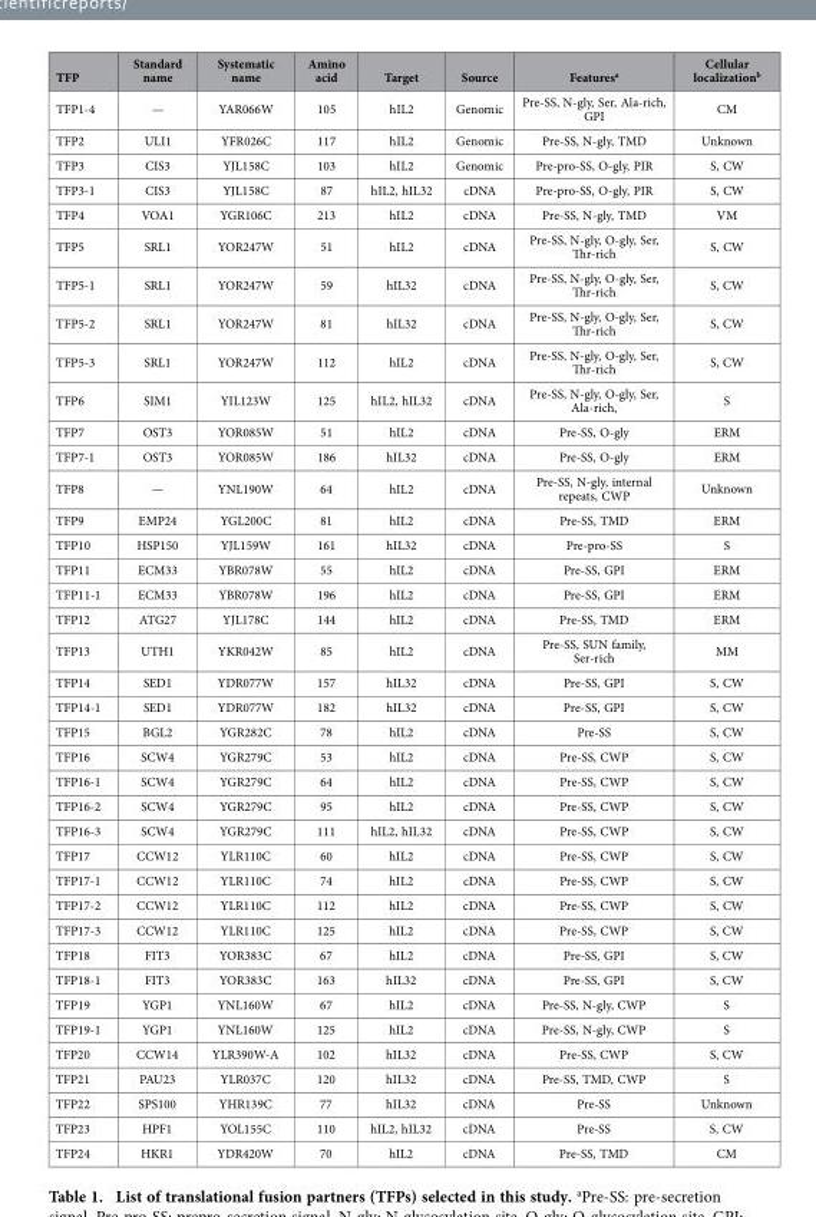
<table><thead><tr><td>TFP</td><td>Standard name</td><td>Systematic name</td><td>Amino acid</td><td>Target</td><td>Source</td><td>Features<sup>a</sup></td><td>Cellular localization<sup>b</sup></td></tr></thead><tbody><tr><td>TFP1-4</td><td>—</td><td>YAR066W</td><td>105</td><td>hIL2</td><td>Genomic</td><td>Pre-SS, N-gly, Ser, Ala-rich, GPI</td><td>CM</td></tr><tr><td>TFP2</td><td>ULI1</td><td>YFR026C</td><td>117</td><td>hIL2</td><td>Genomic</td><td>Pre-SS, N-gly, TMD</td><td>Unknown</td></tr><tr><td>TFP3</td><td>CIS3</td><td>YJL158C</td><td>103</td><td>hIL2</td><td>Genomic</td><td>Pre-pro-SS, O-gly, PIR</td><td>S, CW</td></tr><tr><td>TFP3-1</td><td>CIS3</td><td>YJL158C</td><td>87</td><td>hIL2, hIL32</td><td>cDNA</td><td>Pre-pro-SS, O-gly, PIR</td><td>S, CW</td></tr><tr><td>TFP4</td><td>VOA1</td><td>YGR106C</td><td>213</td><td>hIL2</td><td>cDNA</td><td>Pre-SS, N-gly, TMD</td><td>VM</td></tr><tr><td>TFP5</td><td>SRL1</td><td>YOR247W</td><td>51</td><td>hIL2</td><td>cDNA</td><td>Pre-SS, N-gly, O-gly, Ser, Thr-rich</td><td>S, CW</td></tr><tr><td>TFP5-1</td><td>SRL1</td><td>YOR247W</td><td>59</td><td>hIL32</td><td>cDNA</td><td>Pre-SS, N-gly, O-gly, Ser, Thr-rich</td><td>S, CW</td></tr><tr><td>TFP5-2</td><td>SRL1</td><td>YOR247W</td><td>81</td><td>hIL32</td><td>cDNA</td><td>Pre-SS, N-gly, O-gly, Ser, Thr-rich</td><td>S, CW</td></tr><tr><td>TFP5-3</td><td>SRL1</td><td>YOR247W</td><td>112</td><td>hIL2</td><td>cDNA</td><td>Pre-SS, N-gly, O-gly, Ser, Thr-rich</td><td>S, CW</td></tr><tr><td>TFP6</td><td>SIM1</td><td>YIL123W</td><td>125</td><td>hIL2, hIL32</td><td>cDNA</td><td>Pre-SS, N-gly, O-gly, Ser, Ala-rich,</td><td>S</td></tr><tr><td>TFP7</td><td>OST3</td><td>YOR085W</td><td>51</td><td>hIL2</td><td>cDNA</td><td>Pre-SS, O-gly</td><td>ERM</td></tr><tr><td>TFP7-1</td><td>OST3</td><td>YOR085W</td><td>186</td><td>hIL32</td><td>cDNA</td><td>Pre-SS, O-gly</td><td>ERM</td></tr><tr><td>TFP8</td><td>—</td><td>YNL190W</td><td>64</td><td>hIL2</td><td>cDNA</td><td>Pre-SS, N-gly, internal repeats, CWP</td><td>Unknown</td></tr><tr><td>TFP9</td><td>EMP24</td><td>YGL200C</td><td>81</td><td>hIL2</td><td>cDNA</td><td>Pre-SS, TMD</td><td>ERM</td></tr><tr><td>TFP10</td><td>HSP150</td><td>YJL159W</td><td>161</td><td>hIL32</td><td>cDNA</td><td>Pre-pro-SS</td><td>S</td></tr><tr><td>TFP11</td><td>ECM33</td><td>YBR078W</td><td>55</td><td>hIL2</td><td>cDNA</td><td>Pre-SS, GPI</td><td>ERM</td></tr><tr><td>TFP11-1</td><td>ECM33</td><td>YBR078W</td><td>196</td><td>hIL2</td><td>cDNA</td><td>Pre-SS, GPI</td><td>ERM</td></tr><tr><td>TFP12</td><td>ATG27</td><td>YJL178C</td><td>144</td><td>hIL2</td><td>cDNA</td><td>Pre-SS, TMD</td><td>ERM</td></tr><tr><td>TFP13</td><td>UTH1</td><td>YKR042W</td><td>85</td><td>hIL2</td><td>cDNA</td><td>Pre-SS, SUN family, Ser-rich</td><td>MM</td></tr><tr><td>TFP14</td><td>SED1</td><td>YDR077W</td><td>157</td><td>hIL32</td><td>cDNA</td><td>Pre-SS, GPI</td><td>S, CW</td></tr><tr><td>TFP14-1</td><td>SED1</td><td>YDR077W</td><td>182</td><td>hIL32</td><td>cDNA</td><td>Pre-SS, GPI</td><td>S, CW</td></tr><tr><td>TFP15</td><td>BGL2</td><td>YGR282C</td><td>78</td><td>hIL2</td><td>cDNA</td><td>Pre-SS</td><td>S, CW</td></tr><tr><td>TFP16</td><td>SCW4</td><td>YGR279C</td><td>53</td><td>hIL2</td><td>cDNA</td><td>Pre-SS, CWP</td><td>S, CW</td></tr><tr><td>TFP16-1</td><td>SCW4</td><td>YGR279C</td><td>64</td><td>hIL2</td><td>cDNA</td><td>Pre-SS, CWP</td><td>S, CW</td></tr><tr><td>TFP16-2</td><td>SCW4</td><td>YGR279C</td><td>95</td><td>hIL2</td><td>cDNA</td><td>Pre-SS, CWP</td><td>S, CW</td></tr><tr><td>TFP16-3</td><td>SCW4</td><td>YGR279C</td><td>111</td><td>hIL2, hIL32</td><td>cDNA</td><td>Pre-SS, CWP</td><td>S, CW</td></tr><tr><td>TFP17</td><td>CCW12</td><td>YLR110C</td><td>60</td><td>hIL2</td><td>cDNA</td><td>Pre-SS, CWP</td><td>S, CW</td></tr><tr><td>TFP17-1</td><td>CCW12</td><td>YLR110C</td><td>74</td><td>hIL2</td><td>cDNA</td><td>Pre-SS, CWP</td><td>S, CW</td></tr><tr><td>TFP17-2</td><td>CCW12</td><td>YLR110C</td><td>112</td><td>hIL2</td><td>cDNA</td><td>Pre-SS, CWP</td><td>S, CW</td></tr><tr><td>TFP17-3</td><td>CCW12</td><td>YLR110C</td><td>125</td><td>hIL2</td><td>cDNA</td><td>Pre-SS, CWP</td><td>S, CW</td></tr><tr><td>TFP18</td><td>FIT3</td><td>YOR383C</td><td>67</td><td>hIL2</td><td>cDNA</td><td>Pre-SS, GPI</td><td>S, CW</td></tr><tr><td>TFP18-1</td><td>FIT3</td><td>YOR383C</td><td>163</td><td>hIL32</td><td>cDNA</td><td>Pre-SS, GPI</td><td>S, CW</td></tr><tr><td>TFP19</td><td>YGP1</td><td>YNL160W</td><td>67</td><td>hIL2</td><td>cDNA</td><td>Pre-SS, N-gly, CWP</td><td>S</td></tr><tr><td>TFP19-1</td><td>YGP1</td><td>YNL160W</td><td>125</td><td>hIL2</td><td>cDNA</td><td>Pre-SS, N-gly, CWP</td><td>S</td></tr><tr><td>TFP20</td><td>CCW14</td><td>YLR390W-A</td><td>102</td><td>hIL32</td><td>cDNA</td><td>Pre-SS, CWP</td><td>S, CW</td></tr><tr><td>TFP21</td><td>PAU23</td><td>YLR037C</td><td>120</td><td>hIL32</td><td>cDNA</td><td>Pre-SS, TMD, CWP</td><td>S</td></tr><tr><td>TFP22</td><td>SPS100</td><td>YHR139C</td><td>77</td><td>hIL32</td><td>cDNA</td><td>Pre-SS</td><td>Unknown</td></tr><tr><td>TFP23</td><td>HPF1</td><td>YOL155C</td><td>110</td><td>hIL2, hIL32</td><td>cDNA</td><td>Pre-SS</td><td>S, CW</td></tr><tr><td>TFP24</td><td>HKR1</td><td>YDR420W</td><td>70</td><td>hIL2</td><td>cDNA</td><td>Pre-SS, TMD</td><td>CM</td></tr></tbody></table>